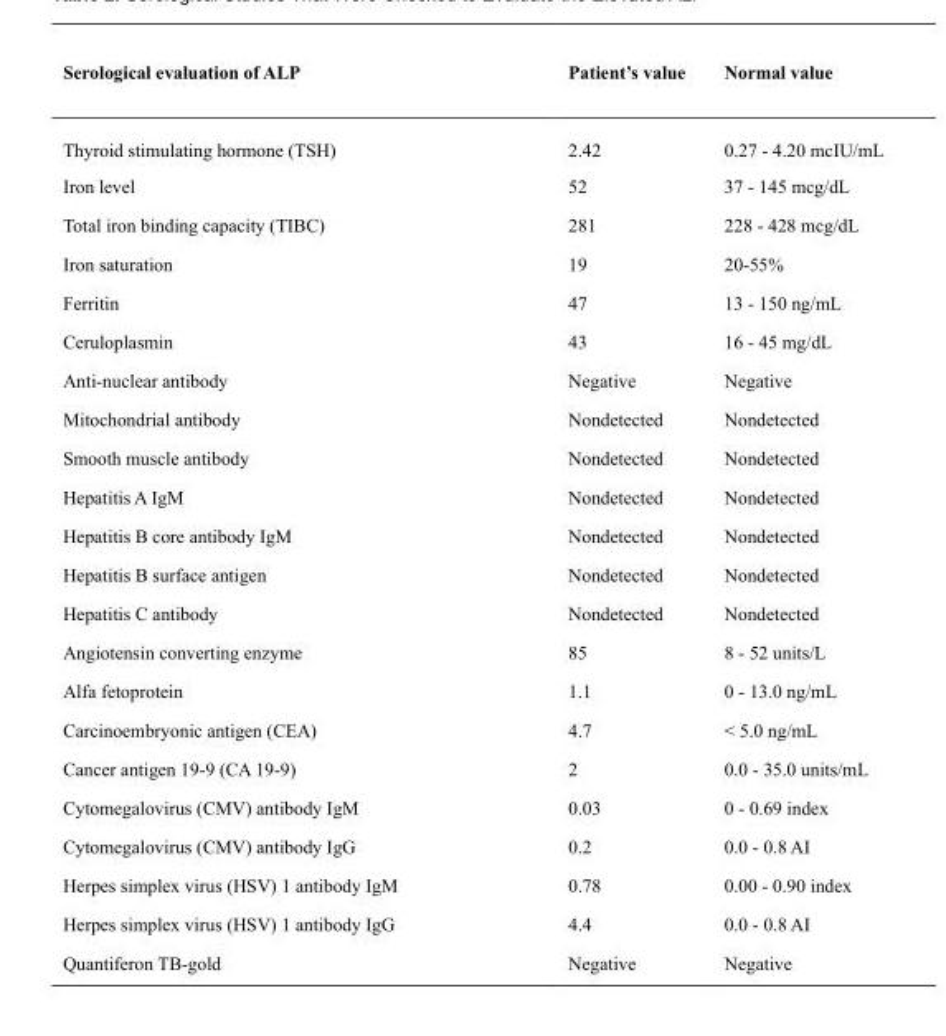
<table><thead><tr><td>Serological evaluation of ALP</td><td>Patient’s value</td><td>Normal value</td></tr></thead><tbody><tr><td>Thyroid stimulating hormone (TSH)</td><td>2.42</td><td>0.27 - 4.20 mcIU/mL</td></tr><tr><td>Iron level</td><td>52</td><td>37 - 145 mcg/dL</td></tr><tr><td>Total iron binding capacity (TIBC)</td><td>281</td><td>228 - 428 mcg/dL</td></tr><tr><td>Iron saturation</td><td>19</td><td>20-55%</td></tr><tr><td>Ferritin</td><td>47</td><td>13 - 150 ng/mL</td></tr><tr><td>Ceruloplasmin</td><td>43</td><td>16 - 45 mg/dL</td></tr><tr><td>Anti-nuclear antibody</td><td>Negative</td><td>Negative</td></tr><tr><td>Mitochondrial antibody</td><td>Nondetected</td><td>Nondetected</td></tr><tr><td>Smooth muscle antibody</td><td>Nondetected</td><td>Nondetected</td></tr><tr><td>Hepatitis A IgM</td><td>Nondetected</td><td>Nondetected</td></tr><tr><td>Hepatitis B core antibody IgM</td><td>Nondetected</td><td>Nondetected</td></tr><tr><td>Hepatitis B surface antigen</td><td>Nondetected</td><td>Nondetected</td></tr><tr><td>Hepatitis C antibody</td><td>Nondetected</td><td>Nondetected</td></tr><tr><td>Angiotensin converting enzyme</td><td>85</td><td>8 - 52 units/L</td></tr><tr><td>Alfa fetoprotein</td><td>1.1</td><td>0 - 13.0 ng/mL</td></tr><tr><td>Carcinoembryonic antigen (CEA)</td><td>4.7</td><td>&lt; 5.0 ng/mL</td></tr><tr><td>Cancer antigen 19-9 (CA 19-9)</td><td>2</td><td>0.0 - 35.0 units/mL</td></tr><tr><td>Cytomegalovirus (CMV) antibody IgM</td><td>0.03</td><td>0 - 0.69 index</td></tr><tr><td>Cytomegalovirus (CMV) antibody IgG</td><td>0.2</td><td>0.0 - 0.8 AI</td></tr><tr><td>Herpes simplex virus (HSV) 1 antibody IgM</td><td>0.78</td><td>0.00 - 0.90 index</td></tr><tr><td>Herpes simplex virus (HSV) 1 antibody IgG</td><td>4.4</td><td>0.0 - 0.8 AI</td></tr><tr><td>Quantiferon TB-gold</td><td>Negative</td><td>Negative</td></tr></tbody></table>